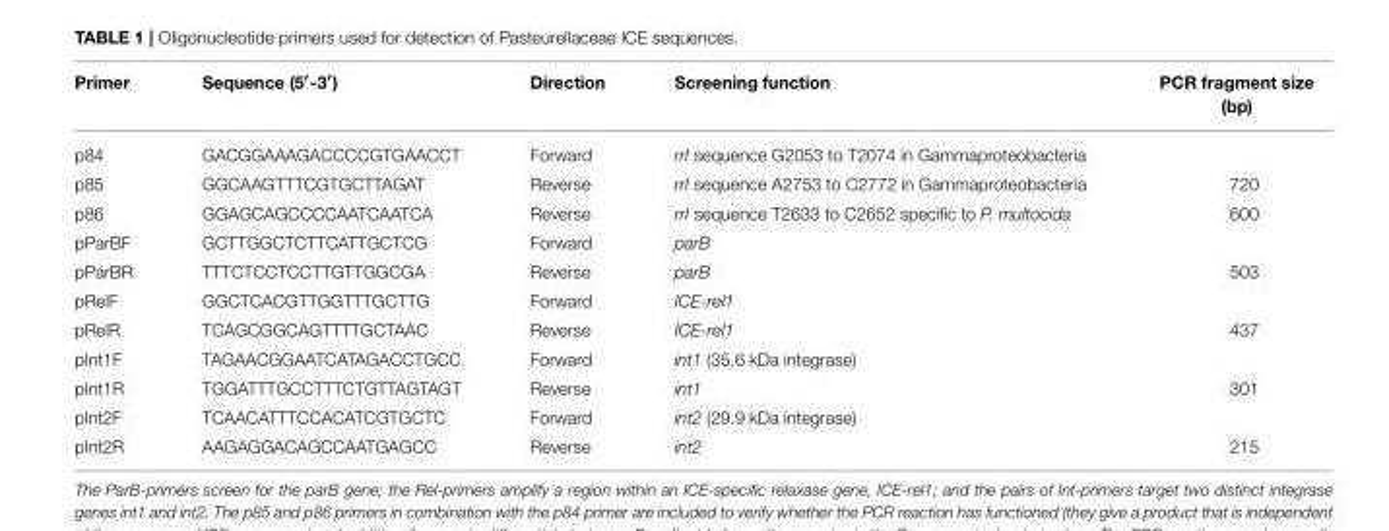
<table><thead><tr><td>Primer</td><td>Sequence (5′-3′)</td><td>Direction</td><td>Screening function</td><td>PCR fragment size (bp)</td></tr></thead><tbody><tr><td>p84</td><td>GACGGAAAGACCCCGTGAACCT</td><td>Forward</td><td>rrl sequence G2053 to T2074 in Gammaproteobacteria</td><td></td></tr><tr><td>p85</td><td>GGCAAGTTTCGTGCTTAGAT</td><td>Reverse</td><td>rrl sequence A2753 to C2772 in Gammaproteobacteria</td><td>720</td></tr><tr><td>p86</td><td>GGAGCAGCCCCAATCAATCA</td><td>Reverse</td><td>rrl sequence T2633 to C2652 specific to P. multocida</td><td>600</td></tr><tr><td>pParBF</td><td>GCTTGGCTCTTCATTGCTCG</td><td>Forward</td><td>parB</td><td></td></tr><tr><td>pParBR</td><td>TTTCTCCTCCTTGTTGGCGA</td><td>Reverse</td><td>parB</td><td>503</td></tr><tr><td>pRelF</td><td>GGCTCACGTTGGTTTGCTTG</td><td>Forward</td><td>ICE-rel1</td><td></td></tr><tr><td>pRelR</td><td>TCAGCGGCAGTTTTGCTAAC</td><td>Reverse</td><td>ICE-rel1</td><td>437</td></tr><tr><td>pInt1F</td><td>TAGAACGGAATCATAGACCTGCC</td><td>Forward</td><td>int1 (35.6 kDa integrase)</td><td></td></tr><tr><td>pInt1R</td><td>TGGATTTGCCTTTCTGTTAGTAGT</td><td>Reverse</td><td>int1</td><td>301</td></tr><tr><td>pInt2F</td><td>TCAACATTTCCACATCGTGCTC</td><td>Forward</td><td>int2 (29.9 kDa integrase)</td><td></td></tr><tr><td>pInt2R</td><td>AAGAGGACAGCCAATGAGCC</td><td>Reverse</td><td>int2</td><td>215</td></tr></tbody></table>